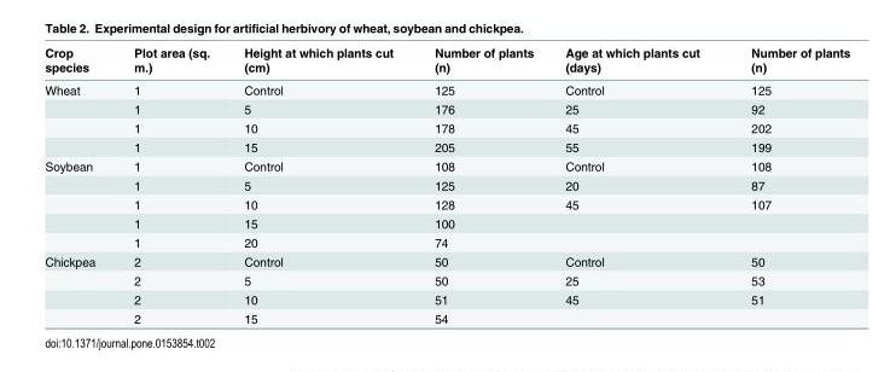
<table><thead><tr><td>Crop species</td><td>Plot area (sq. m.)</td><td>Height at which plants cut (cm)</td><td>Number of plants (n)</td><td>Age at which plants cut (days)</td><td>Number of plants (n)</td></tr></thead><tbody><tr><td rowspan="4">Wheat</td><td>1</td><td>Control</td><td>125</td><td>Control</td><td>125</td></tr><tr><td>1</td><td>5</td><td>176</td><td>25</td><td>92</td></tr><tr><td>1</td><td>10</td><td>178</td><td>45</td><td>202</td></tr><tr><td>1</td><td>15</td><td>205</td><td>55</td><td>199</td></tr><tr><td rowspan="5">Soybean</td><td>1</td><td>Control</td><td>108</td><td>Control</td><td>108</td></tr><tr><td>1</td><td>5</td><td>125</td><td>20</td><td>87</td></tr><tr><td>1</td><td>10</td><td>128</td><td>45</td><td>107</td></tr><tr><td>1</td><td>15</td><td>100</td><td></td><td></td></tr><tr><td>1</td><td>20</td><td>74</td><td></td><td></td></tr><tr><td rowspan="4">Chickpea</td><td>2</td><td>Control</td><td>50</td><td>Control</td><td>50</td></tr><tr><td>2</td><td>5</td><td>50</td><td>25</td><td>53</td></tr><tr><td>2</td><td>10</td><td>51</td><td>45</td><td>51</td></tr><tr><td>2</td><td>15</td><td>54</td><td></td><td></td></tr></tbody></table>